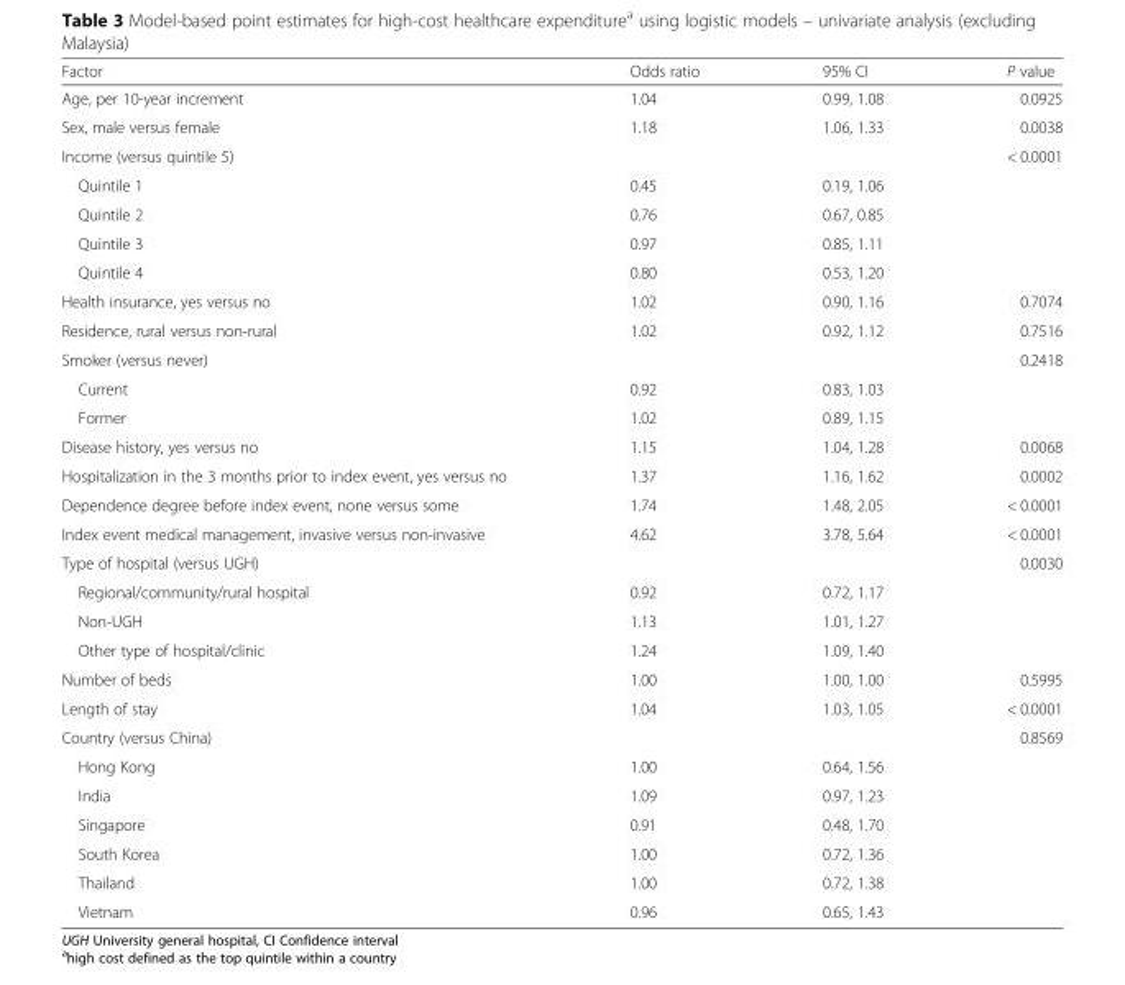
<table><thead><tr><td>Factor</td><td>Odds ratio</td><td>95% CI</td><td>P value</td></tr></thead><tbody><tr><td>Age, per 10-year increment</td><td>1.04</td><td>0.99, 1.08</td><td>0.0925</td></tr><tr><td>Sex, male versus female</td><td>1.18</td><td>1.06, 1.33</td><td>0.0038</td></tr><tr><td>Income (versus quintile 5)</td><td></td><td></td><td>&lt; 0.0001</td></tr><tr><td>Quintile 1</td><td>0.45</td><td>0.19, 1.06</td><td></td></tr><tr><td>Quintile 2</td><td>0.76</td><td>0.67, 0.85</td><td></td></tr><tr><td>Quintile 3</td><td>0.97</td><td>0.85, 1.11</td><td></td></tr><tr><td>Quintile 4</td><td>0.80</td><td>0.53, 1.20</td><td></td></tr><tr><td>Health insurance, yes versus no</td><td>1.02</td><td>0.90, 1.16</td><td>0.7074</td></tr><tr><td>Residence, rural versus non-rural</td><td>1.02</td><td>0.92, 1.12</td><td>0.7516</td></tr><tr><td>Smoker (versus never)</td><td></td><td></td><td>0.2418</td></tr><tr><td>Current</td><td>0.92</td><td>0.83, 1.03</td><td></td></tr><tr><td>Former</td><td>1.02</td><td>0.89, 1.15</td><td></td></tr><tr><td>Disease history, yes versus no</td><td>1.15</td><td>1.04, 1.28</td><td>0.0068</td></tr><tr><td>Hospitalization in the 3 months prior to index event, yes versus no</td><td>1.37</td><td>1.16, 1.62</td><td>0.0002</td></tr><tr><td>Dependence degree before index event, none versus some</td><td>1.74</td><td>1.48, 2.05</td><td>&lt; 0.0001</td></tr><tr><td>Index event medical management, invasive versus non-invasive</td><td>4.62</td><td>3.78, 5.64</td><td>&lt; 0.0001</td></tr><tr><td>Type of hospital (versus UGH)</td><td></td><td></td><td>0.0030</td></tr><tr><td>Regional/community/rural hospital</td><td>0.92</td><td>0.72, 1.17</td><td></td></tr><tr><td>Non-UGH</td><td>1.13</td><td>1.01, 1.27</td><td></td></tr><tr><td>Other type of hospital/clinic</td><td>1.24</td><td>1.09, 1.40</td><td></td></tr><tr><td>Number of beds</td><td>1.00</td><td>1.00, 1.00</td><td>0.5995</td></tr><tr><td>Length of stay</td><td>1.04</td><td>1.03, 1.05</td><td>&lt; 0.0001</td></tr><tr><td>Country (versus China)</td><td></td><td></td><td>0.8569</td></tr><tr><td>Hong Kong</td><td>1.00</td><td>0.64, 1.56</td><td></td></tr><tr><td>India</td><td>1.09</td><td>0.97, 1.23</td><td></td></tr><tr><td>Singapore</td><td>0.91</td><td>0.48, 1.70</td><td></td></tr><tr><td>South Korea</td><td>1.00</td><td>0.72, 1.36</td><td></td></tr><tr><td>Thailand</td><td>1.00</td><td>0.72, 1.38</td><td></td></tr><tr><td>Vietnam</td><td>0.96</td><td>0.65, 1.43</td><td></td></tr></tbody></table>